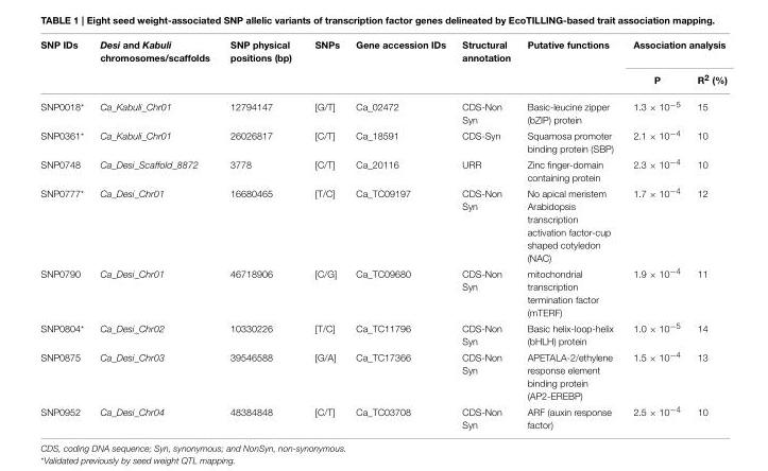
<table><thead><tr><td rowspan="2">SNP IDs</td><td rowspan="2">Desi and Kabuli chromosomes/scaffolds</td><td rowspan="2">SNP physical positions (bp)</td><td rowspan="2">SNPs</td><td rowspan="2">Gene accession IDs</td><td rowspan="2">Structural annotation</td><td rowspan="2">Putative functions</td><td colspan="2">Association analysis</td></tr><tr><td>P</td><td>R<sup>2</sup> (%)</td></tr></thead><tbody><tr><td>SNP0018*</td><td>Ca_Kabuli_Chr01</td><td>12794147</td><td>[G/T]</td><td>Ca_02472</td><td>CDS-Non Syn</td><td>Basic-leucine zipper (bZIP) protein</td><td>1.3 × 10<sup>−5</sup></td><td>15</td></tr><tr><td>SNP0361*</td><td>Ca_Kabuli_Chr01</td><td>26026817</td><td>[C/T]</td><td>Ca_18591</td><td>CDS-Syn</td><td>Squamosa promoter binding protein (SBP)</td><td>2.1 × 10<sup>−4</sup></td><td>10</td></tr><tr><td>SNP0748</td><td>Ca_Desi_Scaffold_8872</td><td>3778</td><td>[C/T]</td><td>Ca_20116</td><td>URR</td><td>Zinc finger-domain containing protein</td><td>2.3 × 10<sup>−4</sup></td><td>10</td></tr><tr><td>SNP0777*</td><td>Ca_Desi_Chr01</td><td>16680465</td><td>[T/C]</td><td>Ca_TC09197</td><td>CDS-Non Syn</td><td>No apical meristem Arabidopsis transcription activation factor-cup shaped cotyledon (NAC)</td><td>1.7 × 10<sup>−4</sup></td><td>12</td></tr><tr><td>SNP0790</td><td>Ca_Desi_Chr01</td><td>46718906</td><td>[C/G]</td><td>Ca_TC09680</td><td>CDS-Non Syn</td><td>mitochondrial transcription termination factor (mTERF)</td><td>1.9 × 10<sup>−4</sup></td><td>11</td></tr><tr><td>SNP0804*</td><td>Ca_Desi_Chr02</td><td>10330226</td><td>[T/C]</td><td>Ca_TC11796</td><td>CDS-Non Syn</td><td>Basic helix-loop-helix (bHLH) protein</td><td>1.0 × 10<sup>−5</sup></td><td>14</td></tr><tr><td>SNP0875</td><td>Ca_Desi_Chr03</td><td>39546588</td><td>[G/A]</td><td>Ca_TC17366</td><td>CDS-Non Syn</td><td>APETALA-2/ethylene response element binding protein (AP2-EREBP)</td><td>1.5 × 10<sup>−4</sup></td><td>13</td></tr><tr><td>SNP0952</td><td>Ca_Desi_Chr04</td><td>48384848</td><td>[C/T]</td><td>Ca_TC03708</td><td>CDS-Non Syn</td><td>ARF (auxin response factor)</td><td>2.5 × 10<sup>−4</sup></td><td>10</td></tr></tbody></table>